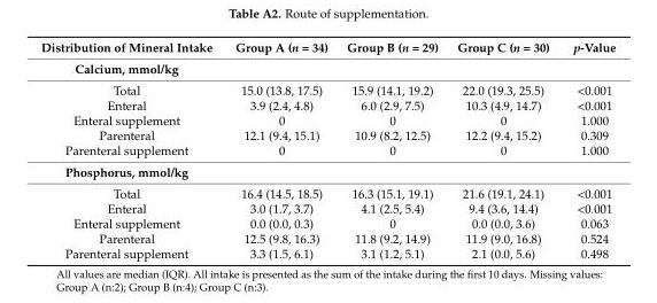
<table><thead><tr><td>Distribution of Mineral Intake</td><td>Group A (n = 34)</td><td>Group B (n = 29)</td><td>Group C (n = 30)</td><td>p-Value</td></tr></thead><tbody><tr><td colspan="5">Calcium, mmol/kg</td></tr><tr><td>Total</td><td>15.0 (13.8, 17.5)</td><td>15.9 (14.1, 19.2)</td><td>22.0 (19.3, 25.5)</td><td>&lt;0.001</td></tr><tr><td>Enteral</td><td>3.9 (2.4, 4.8)</td><td>6.0 (2.9, 7.5)</td><td>10.3 (4.9, 14.7)</td><td>&lt;0.001</td></tr><tr><td>Enteral supplement</td><td>0</td><td>0</td><td>0</td><td>1.000</td></tr><tr><td>Parenteral</td><td>12.1 (9.4, 15.1)</td><td>10.9 (8.2, 12.5)</td><td>12.2 (9.4, 15.2)</td><td>0.309</td></tr><tr><td>Parenteral supplement</td><td>0</td><td>0</td><td>0</td><td>1.000</td></tr><tr><td colspan="5">Phosphorus, mmol/kg</td></tr><tr><td>Total</td><td>16.4 (14.5, 18.5)</td><td>16.3 (15.1, 19.1)</td><td>21.6 (19.1, 24.1)</td><td>&lt;0.001</td></tr><tr><td>Enteral</td><td>3.0 (1.7, 3.7)</td><td>4.1 (2.5, 5.4)</td><td>9.4 (3.6, 14.4)</td><td>&lt;0.001</td></tr><tr><td>Enteral supplement</td><td>0.0 (0.0, 0.3)</td><td>0</td><td>0.0 (0.0, 3.6)</td><td>0.063</td></tr><tr><td>Parenteral</td><td>12.5 (9.8, 16.3)</td><td>11.8 (9.2, 14.9)</td><td>11.9 (9.0, 16.8)</td><td>0.524</td></tr><tr><td>Parenteral supplement</td><td>3.3 (1.5, 6.1)</td><td>3.1 (1.2, 5.1)</td><td>2.1 (0.0, 5.6)</td><td>0.498</td></tr></tbody></table>